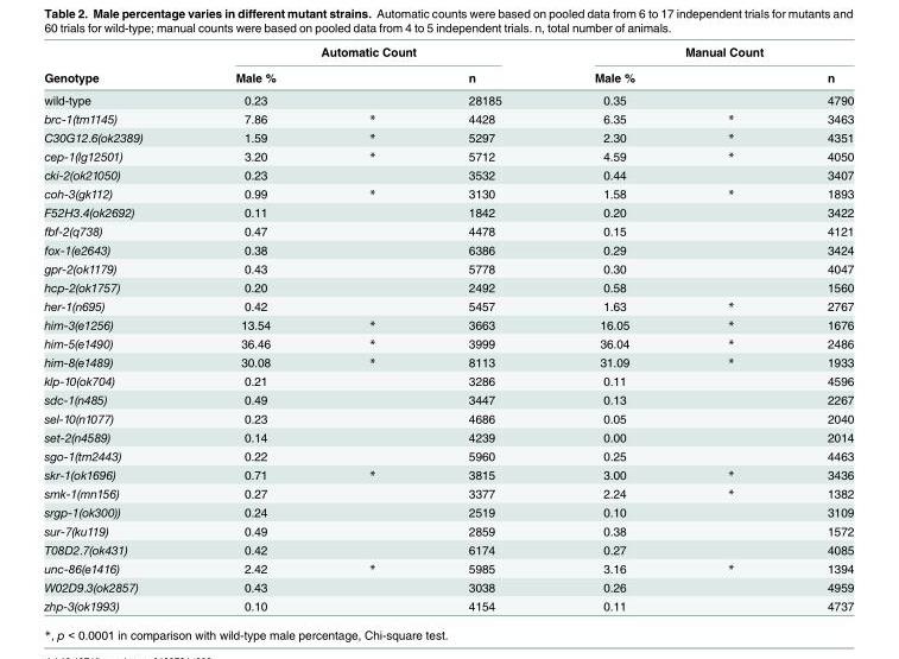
<table><thead><tr><td rowspan="2">Genotype</td><td colspan="3">Automatic Count</td><td colspan="3">Manual Count</td></tr><tr><td>Male %</td><td></td><td>n</td><td>Male %</td><td></td><td>n</td></tr></thead><tbody><tr><td>wild-type</td><td>0.23</td><td></td><td>28185</td><td>0.35</td><td></td><td>4790</td></tr><tr><td>brc-1(tm1145)</td><td>7.86</td><td>*</td><td>4428</td><td>6.35</td><td>*</td><td>3463</td></tr><tr><td>C30G12.6(ok2389)</td><td>1.59</td><td>*</td><td>5297</td><td>2.30</td><td>*</td><td>4351</td></tr><tr><td>cep-1(lg12501)</td><td>3.20</td><td>*</td><td>5712</td><td>4.59</td><td>*</td><td>4050</td></tr><tr><td>cki-2(ok21050)</td><td>0.23</td><td></td><td>3532</td><td>0.44</td><td></td><td>3407</td></tr><tr><td>coh-3(gk112)</td><td>0.99</td><td>*</td><td>3130</td><td>1.58</td><td>*</td><td>1893</td></tr><tr><td>F52H3.4(ok2692)</td><td>0.11</td><td></td><td>1842</td><td>0.20</td><td></td><td>3422</td></tr><tr><td>fbf-2(q738)</td><td>0.47</td><td></td><td>4478</td><td>0.15</td><td></td><td>4121</td></tr><tr><td>fox-1(e2643)</td><td>0.38</td><td></td><td>6386</td><td>0.29</td><td></td><td>3424</td></tr><tr><td>gpr-2(ok1179)</td><td>0.43</td><td></td><td>5778</td><td>0.30</td><td></td><td>4047</td></tr><tr><td>hcp-2(ok1757)</td><td>0.20</td><td></td><td>2492</td><td>0.58</td><td></td><td>1560</td></tr><tr><td>her-1(n695)</td><td>0.42</td><td></td><td>5457</td><td>1.63</td><td>*</td><td>2767</td></tr><tr><td>him-3(e1256)</td><td>13.54</td><td>*</td><td>3663</td><td>16.05</td><td>*</td><td>1676</td></tr><tr><td>him-5(e1490)</td><td>36.46</td><td>*</td><td>3999</td><td>36.04</td><td>*</td><td>2486</td></tr><tr><td>him-8(e1489)</td><td>30.08</td><td>*</td><td>8113</td><td>31.09</td><td>*</td><td>1933</td></tr><tr><td>klp-10(ok704)</td><td>0.21</td><td></td><td>3286</td><td>0.11</td><td></td><td>4596</td></tr><tr><td>sdc-1(n485)</td><td>0.49</td><td></td><td>3447</td><td>0.13</td><td></td><td>2267</td></tr><tr><td>sel-10(n1077)</td><td>0.23</td><td></td><td>4686</td><td>0.05</td><td></td><td>2040</td></tr><tr><td>set-2(n4589)</td><td>0.14</td><td></td><td>4239</td><td>0.00</td><td></td><td>2014</td></tr><tr><td>sgo-1(tm2443)</td><td>0.22</td><td></td><td>5960</td><td>0.25</td><td></td><td>4463</td></tr><tr><td>skr-1(ok1696)</td><td>0.71</td><td>*</td><td>3815</td><td>3.00</td><td>*</td><td>3436</td></tr><tr><td>smk-1(mn156)</td><td>0.27</td><td></td><td>3377</td><td>2.24</td><td>*</td><td>1382</td></tr><tr><td>srgp-1(ok300))</td><td>0.24</td><td></td><td>2519</td><td>0.10</td><td></td><td>3109</td></tr><tr><td>sur-7(ku119)</td><td>0.49</td><td></td><td>2859</td><td>0.38</td><td></td><td>1572</td></tr><tr><td>T08D2.7(ok431)</td><td>0.42</td><td></td><td>6174</td><td>0.27</td><td></td><td>4085</td></tr><tr><td>unc-86(e1416)</td><td>2.42</td><td>*</td><td>5985</td><td>3.16</td><td>*</td><td>1394</td></tr><tr><td>W02D9.3(ok2857)</td><td>0.43</td><td></td><td>3038</td><td>0.26</td><td></td><td>4959</td></tr><tr><td>zhp-3(ok1993)</td><td>0.10</td><td></td><td>4154</td><td>0.11</td><td></td><td>4737</td></tr></tbody></table>